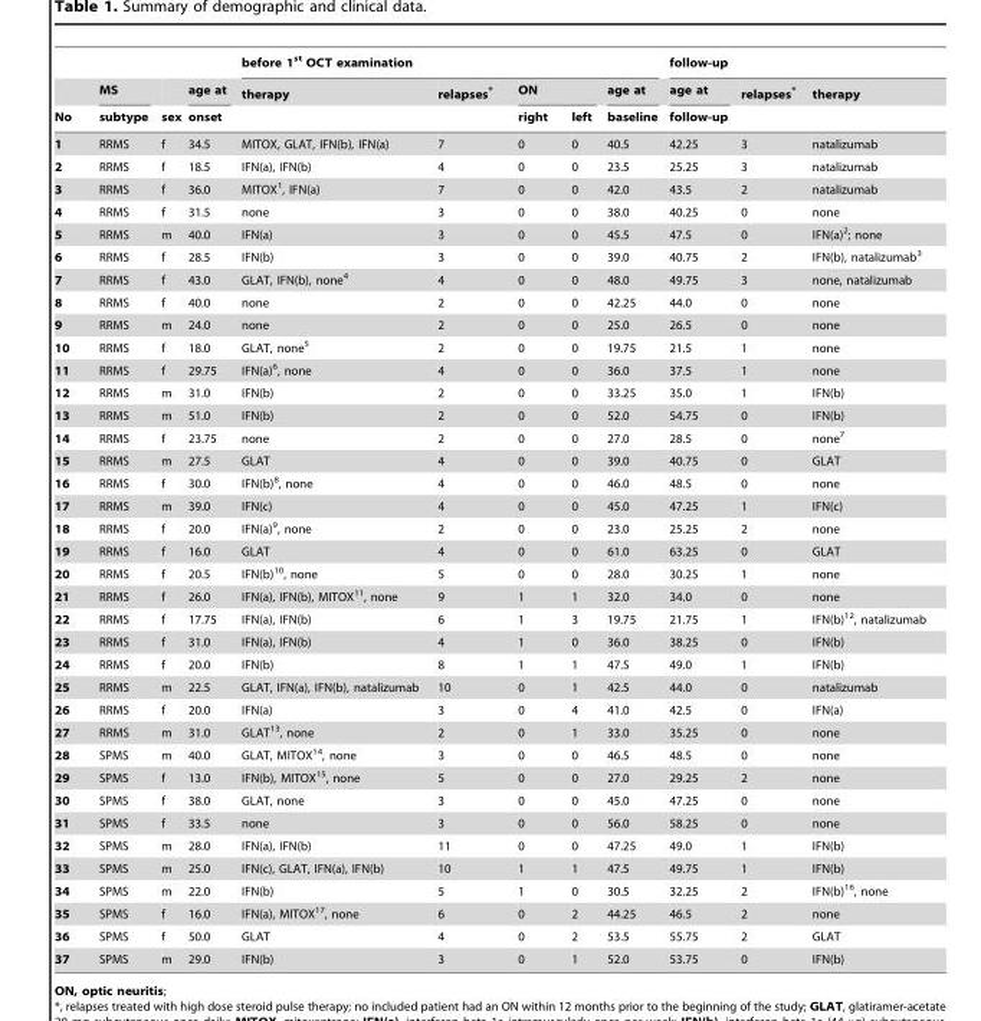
<table><thead><tr><td rowspan="3">No</td><td rowspan="3">MS subtype</td><td rowspan="3">sex</td><td rowspan="3">age at onset</td><td colspan="5">before 1<sup>st</sup> OCT examination</td><td colspan="3">follow-up</td></tr><tr><td rowspan="2">therapy</td><td rowspan="2">relapses*</td><td colspan="2">ON</td><td rowspan="2">age at baseline</td><td rowspan="2">age at follow-up</td><td rowspan="2">relapses*</td><td rowspan="2">therapy</td></tr><tr><td>right</td><td>left</td></tr></thead><tbody><tr><td>1</td><td>RRMS</td><td>f</td><td>34.5</td><td>MITOX, GLAT, IFN(b), IFN(a)</td><td>7</td><td>0</td><td>0</td><td>40.5</td><td>42.25</td><td>3</td><td>natalizumab</td></tr><tr><td>2</td><td>RRMS</td><td>f</td><td>18.5</td><td>IFN(a), IFN(b)</td><td>4</td><td>0</td><td>0</td><td>23.5</td><td>25.25</td><td>3</td><td>natalizumab</td></tr><tr><td>3</td><td>RRMS</td><td>f</td><td>36.0</td><td>MITOX<sup>1</sup>, IFN(a)</td><td>7</td><td>0</td><td>0</td><td>42.0</td><td>43.5</td><td>2</td><td>natalizumab</td></tr><tr><td>4</td><td>RRMS</td><td>f</td><td>31.5</td><td>none</td><td>3</td><td>0</td><td>0</td><td>38.0</td><td>40.25</td><td>0</td><td>none</td></tr><tr><td>5</td><td>RRMS</td><td>m</td><td>40.0</td><td>IFN(a)</td><td>3</td><td>0</td><td>0</td><td>45.5</td><td>47.5</td><td>0</td><td>IFN(a)<sup>2</sup>; none</td></tr><tr><td>6</td><td>RRMS</td><td>f</td><td>28.5</td><td>IFN(b)</td><td>3</td><td>0</td><td>0</td><td>39.0</td><td>40.75</td><td>2</td><td>IFN(b), natalizumab<sup>3</sup></td></tr><tr><td>7</td><td>RRMS</td><td>f</td><td>43.0</td><td>GLAT, IFN(b), none<sup>4</sup></td><td>4</td><td>0</td><td>0</td><td>48.0</td><td>49.75</td><td>3</td><td>none, natalizumab</td></tr><tr><td>8</td><td>RRMS</td><td>f</td><td>40.0</td><td>none</td><td>2</td><td>0</td><td>0</td><td>42.25</td><td>44.0</td><td>0</td><td>none</td></tr><tr><td>9</td><td>RRMS</td><td>m</td><td>24.0</td><td>none</td><td>2</td><td>0</td><td>0</td><td>25.0</td><td>26.5</td><td>0</td><td>none</td></tr><tr><td>10</td><td>RRMS</td><td>f</td><td>18.0</td><td>GLAT, none<sup>5</sup></td><td>2</td><td>0</td><td>0</td><td>19.75</td><td>21.5</td><td>1</td><td>none</td></tr><tr><td>11</td><td>RRMS</td><td>f</td><td>29.75</td><td>IFN(a)<sup>6</sup>, none</td><td>4</td><td>0</td><td>0</td><td>36.0</td><td>37.5</td><td>1</td><td>none</td></tr><tr><td>12</td><td>RRMS</td><td>m</td><td>31.0</td><td>IFN(b)</td><td>2</td><td>0</td><td>0</td><td>33.25</td><td>35.0</td><td>1</td><td>IFN(b)</td></tr><tr><td>13</td><td>RRMS</td><td>m</td><td>51.0</td><td>IFN(b)</td><td>2</td><td>0</td><td>0</td><td>52.0</td><td>54.75</td><td>0</td><td>IFN(b)</td></tr><tr><td>14</td><td>RRMS</td><td>f</td><td>23.75</td><td>none</td><td>2</td><td>0</td><td>0</td><td>27.0</td><td>28.5</td><td>0</td><td>none<sup>7</sup></td></tr><tr><td>15</td><td>RRMS</td><td>m</td><td>27.5</td><td>GLAT</td><td>4</td><td>0</td><td>0</td><td>39.0</td><td>40.75</td><td>0</td><td>GLAT</td></tr><tr><td>16</td><td>RRMS</td><td>f</td><td>30.0</td><td>IFN(b)<sup>8</sup>, none</td><td>4</td><td>0</td><td>0</td><td>46.0</td><td>48.5</td><td>0</td><td>none</td></tr><tr><td>17</td><td>RRMS</td><td>m</td><td>39.0</td><td>IFN(c)</td><td>4</td><td>0</td><td>0</td><td>45.0</td><td>47.25</td><td>1</td><td>IFN(c)</td></tr><tr><td>18</td><td>RRMS</td><td>f</td><td>20.0</td><td>IFN(a)<sup>9</sup>, none</td><td>2</td><td>0</td><td>0</td><td>23.0</td><td>25.25</td><td>2</td><td>none</td></tr><tr><td>19</td><td>RRMS</td><td>f</td><td>16.0</td><td>GLAT</td><td>4</td><td>0</td><td>0</td><td>61.0</td><td>63.25</td><td>0</td><td>GLAT</td></tr><tr><td>20</td><td>RRMS</td><td>f</td><td>20.5</td><td>IFN(b)<sup>10</sup>, none</td><td>5</td><td>0</td><td>0</td><td>28.0</td><td>30.25</td><td>1</td><td>none</td></tr><tr><td>21</td><td>RRMS</td><td>f</td><td>26.0</td><td>IFN(a), IFN(b), MITOX<sup>11</sup>, none</td><td>9</td><td>1</td><td>1</td><td>32.0</td><td>34.0</td><td>0</td><td>none</td></tr><tr><td>22</td><td>RRMS</td><td>f</td><td>17.75</td><td>IFN(a), IFN(b)</td><td>6</td><td>1</td><td>3</td><td>19.75</td><td>21.75</td><td>1</td><td>IFN(b)<sup>12</sup>, natalizumab</td></tr><tr><td>23</td><td>RRMS</td><td>f</td><td>31.0</td><td>IFN(a), IFN(b)</td><td>4</td><td>1</td><td>0</td><td>36.0</td><td>38.25</td><td>0</td><td>IFN(b)</td></tr><tr><td>24</td><td>RRMS</td><td>f</td><td>20.0</td><td>IFN(b)</td><td>8</td><td>1</td><td>1</td><td>47.5</td><td>49.0</td><td>1</td><td>IFN(b)</td></tr><tr><td>25</td><td>RRMS</td><td>m</td><td>22.5</td><td>GLAT, IFN(a), IFN(b), natalizumab</td><td>10</td><td>0</td><td>1</td><td>42.5</td><td>44.0</td><td>0</td><td>natalizumab</td></tr><tr><td>26</td><td>RRMS</td><td>f</td><td>20.0</td><td>IFN(a)</td><td>3</td><td>0</td><td>4</td><td>41.0</td><td>42.5</td><td>0</td><td>IFN(a)</td></tr><tr><td>27</td><td>RRMS</td><td>m</td><td>31.0</td><td>GLAT<sup>13</sup>, none</td><td>2</td><td>0</td><td>1</td><td>33.0</td><td>35.25</td><td>0</td><td>none</td></tr><tr><td>28</td><td>SPMS</td><td>m</td><td>40.0</td><td>GLAT, MITOX<sup>14</sup>, none</td><td>3</td><td>0</td><td>0</td><td>46.5</td><td>48.5</td><td>0</td><td>none</td></tr><tr><td>29</td><td>SPMS</td><td>f</td><td>13.0</td><td>IFN(b), MITOX<sup>15</sup>, none</td><td>5</td><td>0</td><td>0</td><td>27.0</td><td>29.25</td><td>2</td><td>none</td></tr><tr><td>30</td><td>SPMS</td><td>f</td><td>38.0</td><td>GLAT, none</td><td>3</td><td>0</td><td>0</td><td>45.0</td><td>47.25</td><td>0</td><td>none</td></tr><tr><td>31</td><td>SPMS</td><td>f</td><td>33.5</td><td>none</td><td>3</td><td>0</td><td>0</td><td>56.0</td><td>58.25</td><td>0</td><td>none</td></tr><tr><td>32</td><td>SPMS</td><td>m</td><td>28.0</td><td>IFN(a), IFN(b)</td><td>11</td><td>0</td><td>0</td><td>47.25</td><td>49.0</td><td>1</td><td>IFN(b)</td></tr><tr><td>33</td><td>SPMS</td><td>m</td><td>25.0</td><td>IFN(c), GLAT, IFN(a), IFN(b)</td><td>10</td><td>1</td><td>1</td><td>47.5</td><td>49.75</td><td>1</td><td>IFN(b)</td></tr><tr><td>34</td><td>SPMS</td><td>m</td><td>22.0</td><td>IFN(b)</td><td>5</td><td>1</td><td>0</td><td>30.5</td><td>32.25</td><td>2</td><td>IFN(b)<sup>16</sup>, none</td></tr><tr><td>35</td><td>SPMS</td><td>f</td><td>16.0</td><td>IFN(a), MITOX<sup>17</sup>, none</td><td>6</td><td>0</td><td>2</td><td>44.25</td><td>46.5</td><td>2</td><td>none</td></tr><tr><td>36</td><td>SPMS</td><td>f</td><td>50.0</td><td>GLAT</td><td>4</td><td>0</td><td>2</td><td>53.5</td><td>55.75</td><td>2</td><td>GLAT</td></tr><tr><td>37</td><td>SPMS</td><td>m</td><td>29.0</td><td>IFN(b)</td><td>3</td><td>0</td><td>1</td><td>52.0</td><td>53.75</td><td>0</td><td>IFN(b)</td></tr></tbody></table>